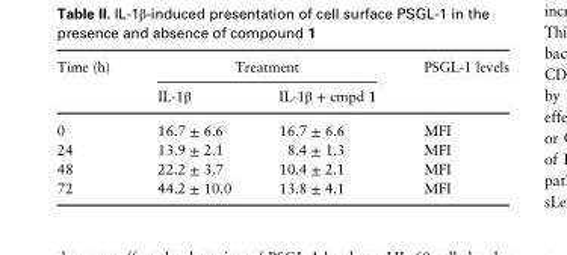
<table><thead><tr><td rowspan="2">Time (h)</td><td colspan="2">Treatment</td><td rowspan="2">PSGL-1 levels</td></tr><tr><td>IL-1β</td><td>IL-1β + cmpd 1</td></tr></thead><tbody><tr><td>0</td><td>16.7 ± 6.6</td><td>16.7 ± 6.6</td><td>MFI</td></tr><tr><td>24</td><td>13.9 ± 2.1</td><td>8.4 ± 1.3</td><td>MFI</td></tr><tr><td>48</td><td>22.2 ± 3.7</td><td>10.4 ± 2.1</td><td>MFI</td></tr><tr><td>72</td><td>44.2 ± 10.0</td><td>13.8 ± 4.1</td><td>MFI</td></tr></tbody></table>